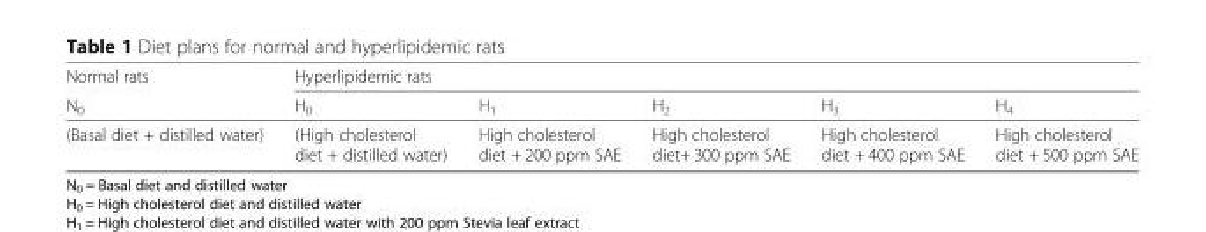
<table><thead><tr><td rowspan="2">Normal rats N<sub>0</sub></td><td colspan="5">Hyperlipidemic rats</td></tr><tr><td>H<sub>0</sub></td><td>H<sub>1</sub></td><td>H<sub>2</sub></td><td>H<sub>3</sub></td><td>H<sub>4</sub></td></tr></thead><tbody><tr><td>(Basal diet + distilled water)</td><td>(High cholesterol diet + distilled water)</td><td>High cholesterol diet + 200 ppm SAE</td><td>High cholesterol diet+ 300 ppm SAE</td><td>High cholesterol diet + 400 ppm SAE</td><td>High cholesterol diet + 500 ppm SAE</td></tr></tbody></table>